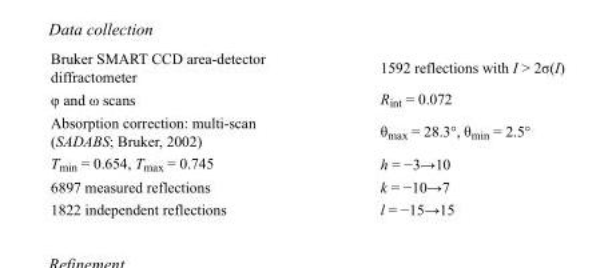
<table><tbody><tr><td>Bruker SMART CCD area-detector diffractometer</td><td>1592 reflections with I &gt; 2σ(I)</td></tr><tr><td>φ and ω scans</td><td>R<sub>int</sub> = 0.072</td></tr><tr><td>Absorption correction: multi-scan (SADABS; Bruker, 2002)</td><td>θ<sub>max</sub> = 28.3°, θ<sub>min</sub> = 2.5°</td></tr><tr><td>T<sub>min</sub> = 0.654, T<sub>max</sub> = 0.745</td><td>h = −3→10</td></tr><tr><td>6897 measured reflections</td><td>k = −10→7</td></tr><tr><td>1822 independent reflections</td><td>l = −15→15</td></tr></tbody></table>